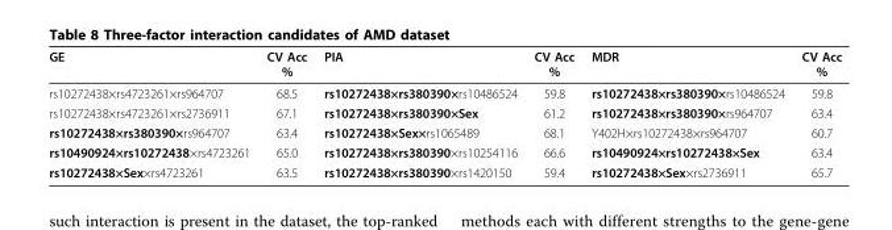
<table><thead><tr><td>GE</td><td>CV Acc %</td><td>PIA</td><td>CV Acc %</td><td>MDR</td><td>CV Acc %</td></tr></thead><tbody><tr><td>rs10272438×rs4723261×rs964707</td><td>68.5</td><td>rs10272438×rs380390×rs10486524</td><td>59.8</td><td>rs10272438×rs380390×rs10486524</td><td>59.8</td></tr><tr><td>rs10272438×rs4723261×rs2736911</td><td>67.1</td><td>rs10272438×rs380390×Sex</td><td>61.2</td><td>rs10272438×rs380390×rs964707</td><td>63.4</td></tr><tr><td>rs10272438×rs380390×rs964707</td><td>63.4</td><td>rs10272438×Sex×rs1065489</td><td>68.1</td><td>Y402H×rs10272438×rs964707</td><td>60.7</td></tr><tr><td>rs10490924×rs10272438×rs4723261</td><td>65.0</td><td>rs10272438×rs380390×rs10254116</td><td>66.6</td><td>rs10490924×rs10272438×Sex</td><td>63.4</td></tr><tr><td>rs10272438×Sex×rs4723261</td><td>63.5</td><td>rs10272438×rs380390×rs1420150</td><td>59.4</td><td>rs10272438×Sex×rs2736911</td><td>65.7</td></tr></tbody></table>